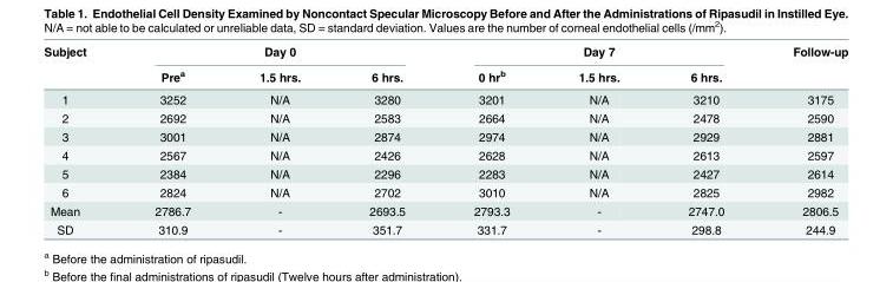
<table><thead><tr><td rowspan="2">Subject</td><td colspan="3">Day 0</td><td colspan="3">Day 7</td><td rowspan="2">Follow-up</td></tr><tr><td>Pre<sup>a</sup></td><td>1.5 hrs.</td><td>6 hrs.</td><td>0 hr<sup>b</sup></td><td>1.5 hrs.</td><td>6 hrs.</td></tr></thead><tbody><tr><td>1</td><td>3252</td><td>N/A</td><td>3280</td><td>3201</td><td>N/A</td><td>3210</td><td>3175</td></tr><tr><td>2</td><td>2692</td><td>N/A</td><td>2583</td><td>2664</td><td>N/A</td><td>2478</td><td>2590</td></tr><tr><td>3</td><td>3001</td><td>N/A</td><td>2874</td><td>2974</td><td>N/A</td><td>2929</td><td>2881</td></tr><tr><td>4</td><td>2567</td><td>N/A</td><td>2426</td><td>2628</td><td>N/A</td><td>2613</td><td>2597</td></tr><tr><td>5</td><td>2384</td><td>N/A</td><td>2296</td><td>2283</td><td>N/A</td><td>2427</td><td>2614</td></tr><tr><td>6</td><td>2824</td><td>N/A</td><td>2702</td><td>3010</td><td>N/A</td><td>2825</td><td>2982</td></tr><tr><td>Mean</td><td>2786.7</td><td>-</td><td>2693.5</td><td>2793.3</td><td>-</td><td>2747.0</td><td>2806.5</td></tr><tr><td>SD</td><td>310.9</td><td>-</td><td>351.7</td><td>331.7</td><td>-</td><td>298.8</td><td>244.9</td></tr></tbody></table>